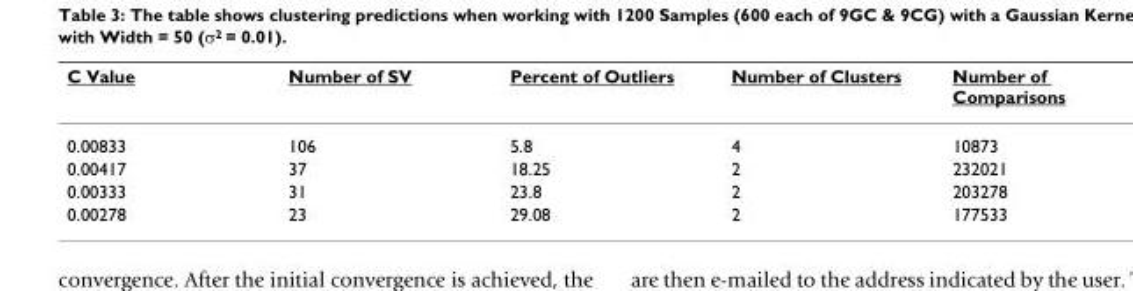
<table><thead><tr><td>C Value</td><td>Number of SV</td><td>Percent of Outliers</td><td>Number of Clusters</td><td>Number of Comparisons</td></tr></thead><tbody><tr><td>0.00833</td><td>106</td><td>5.8</td><td>4</td><td>10873</td></tr><tr><td>0.00417</td><td>37</td><td>18.25</td><td>2</td><td>232021</td></tr><tr><td>0.00333</td><td>31</td><td>23.8</td><td>2</td><td>203278</td></tr><tr><td>0.00278</td><td>23</td><td>29.08</td><td>2</td><td>177533</td></tr></tbody></table>